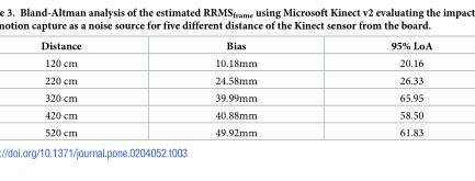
<table><thead><tr><td>Distance</td><td>Bias</td><td>95% LoA</td></tr></thead><tbody><tr><td>120 cm</td><td>10.18mm</td><td>20.16</td></tr><tr><td>220 cm</td><td>24.58mm</td><td>26.33</td></tr><tr><td>320 cm</td><td>39.99mm</td><td>65.95</td></tr><tr><td>420 cm</td><td>40.88mm</td><td>58.50</td></tr><tr><td>520 cm</td><td>49.92mm</td><td>61.83</td></tr></tbody></table>